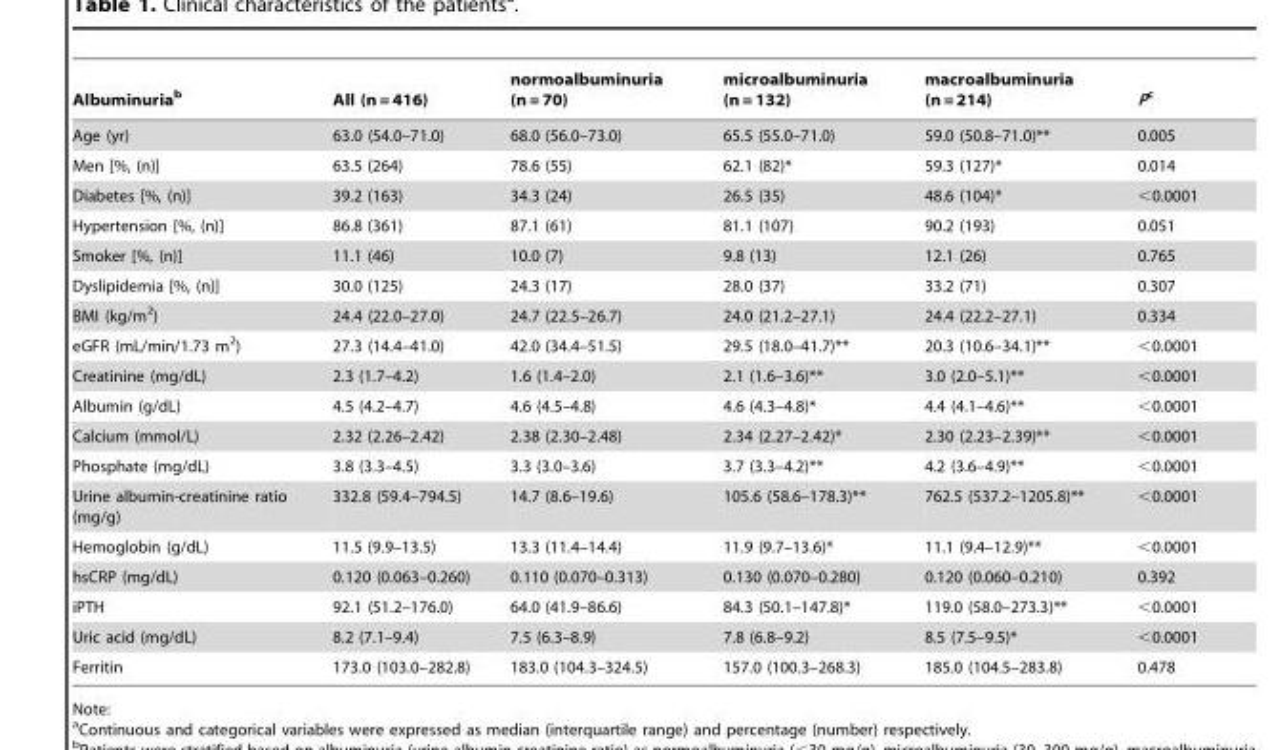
<table><thead><tr><td>Albuminuria<sup>b</sup></td><td>All (n = 416)</td><td>normoalbuminuria (n = 70)</td><td>microalbuminuria (n = 132)</td><td>macroalbuminuria (n = 214)</td><td>Pc</td></tr></thead><tbody><tr><td>Age (yr)</td><td>63.0 (54.0–71.0)</td><td>68.0 (56.0–73.0)</td><td>65.5 (55.0–71.0)</td><td>59.0 (50.8–71.0)**</td><td>0.005</td></tr><tr><td>Men [%, (n)]</td><td>63.5 (264)</td><td>78.6 (55)</td><td>62.1 (82)*</td><td>59.3 (127)*</td><td>0.014</td></tr><tr><td>Diabetes [%, (n)]</td><td>39.2 (163)</td><td>34.3 (24)</td><td>26.5 (35)</td><td>48.6 (104)*</td><td>&lt;0.0001</td></tr><tr><td>Hypertension [%, (n)]</td><td>86.8 (361)</td><td>87.1 (61)</td><td>81.1 (107)</td><td>90.2 (193)</td><td>0.051</td></tr><tr><td>Smoker [%, (n)]</td><td>11.1 (46)</td><td>10.0 (7)</td><td>9.8 (13)</td><td>12.1 (26)</td><td>0.765</td></tr><tr><td>Dyslipidemia [%, (n)]</td><td>30.0 (125)</td><td>24.3 (17)</td><td>28.0 (37)</td><td>33.2 (71)</td><td>0.307</td></tr><tr><td>BMI (kg/m<sup>2</sup>)</td><td>24.4 (22.0–27.0)</td><td>24.7 (22.5–26.7)</td><td>24.0 (21.2–27.1)</td><td>24.4 (22.2–27.1)</td><td>0.334</td></tr><tr><td>eGFR (mL/min/1.73 m<sup>2</sup>)</td><td>27.3 (14.4–41.0)</td><td>42.0 (34.4–51.5)</td><td>29.5 (18.0–41.7)**</td><td>20.3 (10.6–34.1)**</td><td>&lt;0.0001</td></tr><tr><td>Creatinine (mg/dL)</td><td>2.3 (1.7–4.2)</td><td>1.6 (1.4–2.0)</td><td>2.1 (1.6–3.6)**</td><td>3.0 (2.0–5.1)**</td><td>&lt;0.0001</td></tr><tr><td>Albumin (g/dL)</td><td>4.5 (4.2–4.7)</td><td>4.6 (4.5–4.8)</td><td>4.6 (4.3–4.8)*</td><td>4.4 (4.1–4.6)**</td><td>&lt;0.0001</td></tr><tr><td>Calcium (mmol/L)</td><td>2.32 (2.26–2.42)</td><td>2.38 (2.30–2.48)</td><td>2.34 (2.27–2.42)*</td><td>2.30 (2.23–2.39)**</td><td>&lt;0.0001</td></tr><tr><td>Phosphate (mg/dL)</td><td>3.8 (3.3–4.5)</td><td>3.3 (3.0–3.6)</td><td>3.7 (3.3–4.2)**</td><td>4.2 (3.6–4.9)**</td><td>&lt;0.0001</td></tr><tr><td>Urine albumin-creatinine ratio (mg/g)</td><td>332.8 (59.4–794.5)</td><td>14.7 (8.6–19.6)</td><td>105.6 (58.6–178.3)**</td><td>762.5 (537.2–1205.8)**</td><td>&lt;0.0001</td></tr><tr><td>Hemoglobin (g/dL)</td><td>11.5 (9.9–13.5)</td><td>13.3 (11.4–14.4)</td><td>11.9 (9.7–13.6)*</td><td>11.1 (9.4–12.9)**</td><td>&lt;0.0001</td></tr><tr><td>hsCRP (mg/dL)</td><td>0.120 (0.063–0.260)</td><td>0.110 (0.070–0.313)</td><td>0.130 (0.070–0.280)</td><td>0.120 (0.060–0.210)</td><td>0.392</td></tr><tr><td>iPTH</td><td>92.1 (51.2–176.0)</td><td>64.0 (41.9–86.6)</td><td>84.3 (50.1–147.8)*</td><td>119.0 (58.0–273.3)**</td><td>&lt;0.0001</td></tr><tr><td>Uric acid (mg/dL)</td><td>8.2 (7.1–9.4)</td><td>7.5 (6.3–8.9)</td><td>7.8 (6.8–9.2)</td><td>8.5 (7.5–9.5)*</td><td>&lt;0.0001</td></tr><tr><td>Ferritin</td><td>173.0 (103.0–282.8)</td><td>183.0 (104.3–324.5)</td><td>157.0 (100.3–268.3)</td><td>185.0 (104.5–283.8)</td><td>0.478</td></tr></tbody></table>